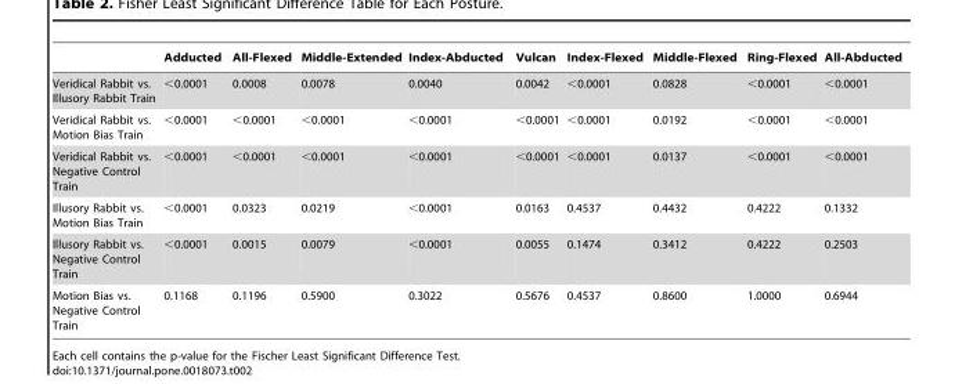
<table><thead><tr><td></td><td>Adducted</td><td>All-Flexed</td><td>Middle-Extended</td><td>Index-Abducted</td><td>Vulcan</td><td>Index-Flexed</td><td>Middle-Flexed</td><td>Ring-Flexed</td><td>All-Abducted</td></tr></thead><tbody><tr><td>Veridical Rabbit vs. Illusory Rabbit Train</td><td>&lt;0.0001</td><td>0.0008</td><td>0.0078</td><td>0.0040</td><td>0.0042</td><td>&lt;0.0001</td><td>0.0828</td><td>&lt;0.0001</td><td>&lt;0.0001</td></tr><tr><td>Veridical Rabbit vs. Motion Bias Train</td><td>&lt;0.0001</td><td>&lt;0.0001</td><td>&lt;0.0001</td><td>&lt;0.0001</td><td>&lt;0.0001</td><td>&lt;0.0001</td><td>0.0192</td><td>&lt;0.0001</td><td>&lt;0.0001</td></tr><tr><td>Veridical Rabbit vs. Negative Control Train</td><td>&lt;0.0001</td><td>&lt;0.0001</td><td>&lt;0.0001</td><td>&lt;0.0001</td><td>&lt;0.0001</td><td>&lt;0.0001</td><td>0.0137</td><td>&lt;0.0001</td><td>&lt;0.0001</td></tr><tr><td>Illusory Rabbit vs. Motion Bias Train</td><td>&lt;0.0001</td><td>0.0323</td><td>0.0219</td><td>&lt;0.0001</td><td>0.0163</td><td>0.4537</td><td>0.4432</td><td>0.4222</td><td>0.1332</td></tr><tr><td>Illusory Rabbit vs. Negative Control Train</td><td>&lt;0.0001</td><td>0.0015</td><td>0.0079</td><td>&lt;0.0001</td><td>0.0055</td><td>0.1474</td><td>0.3412</td><td>0.4222</td><td>0.2503</td></tr><tr><td>Motion Bias vs. Negative Control Train</td><td>0.1168</td><td>0.1196</td><td>0.5900</td><td>0.3022</td><td>0.5676</td><td>0.4537</td><td>0.8600</td><td>1.0000</td><td>0.6944</td></tr></tbody></table>